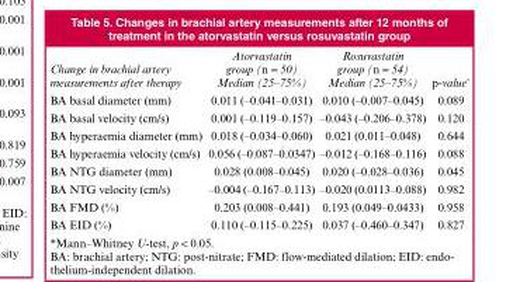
<table><thead><tr><td>Change in brachial artery measurements after therapy</td><td>Atorvastatin group (n = 50) Median (25–75%)</td><td>Rosuvastatin group (n = 54) Median (25–75%)</td><td>p-value*</td></tr></thead><tbody><tr><td>BA basal diameter (mm)</td><td>0.011 (–0.041–0.031)</td><td>0.010 (–0.007–0.045)</td><td>0.089</td></tr><tr><td>BA basal velocity (cm/s)</td><td>0.001 (–0.119–0.157)</td><td>–0.043 (–0.206–0.378)</td><td>0.120</td></tr><tr><td>BA hyperaemia diameter (mm)</td><td>0.018 (–0.034–0.060)</td><td>0.021 (0.011–0.048)</td><td>0.644</td></tr><tr><td>BA hyperaemia velocity (cm/s)</td><td>0.056 (–0.087–0.0347)</td><td>–0.012 (–0.168–0.116)</td><td>0.088</td></tr><tr><td>BA NTG diameter (mm)</td><td>0.028 (0.008–0.045)</td><td>0.020 (–0.028–0.036)</td><td>0.045</td></tr><tr><td>BA NTG velocity (cm/s)</td><td>–0.004 (–0.167–0.113)</td><td>–0.020 (0.0113–0.088)</td><td>0.982</td></tr><tr><td>BA FMD (%)</td><td>0.203 (0.008–0.441)</td><td>0.193 (0.049–0.0433)</td><td>0.958</td></tr><tr><td>BA EID (%)</td><td>0.110 (–0.115–0.225)</td><td>0.037 (–0.460–0.347)</td><td>0.827</td></tr></tbody></table>